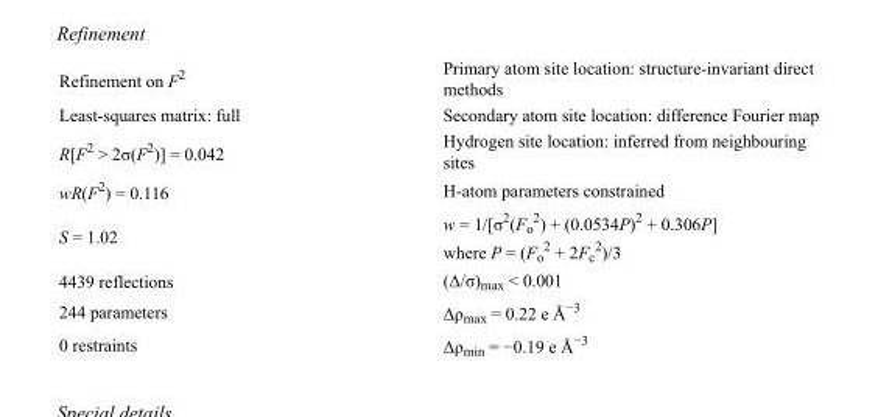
<table><tbody><tr><td>Refinement on F<sup>2</sup></td><td>Primary atom site location: structure-invariant direct methods</td></tr><tr><td>Least-squares matrix: full</td><td>Secondary atom site location: difference Fourier map</td></tr><tr><td>R[F<sup>2</sup> &gt; 2σ(F<sup>2</sup>)] = 0.042</td><td>Hydrogen site location: inferred from neighbouring sites</td></tr><tr><td>wR(F<sup>2</sup>) = 0.116</td><td>H-atom parameters constrained</td></tr><tr><td>S = 1.02</td><td>w = 1/[σ<sup>2</sup>(F<sub>o</sub> <sup>2</sup>) + (0.0534P)<sup>2</sup> + 0.306P] where P = (F<sub>o</sub> <sup>2</sup> + 2F<sub>c</sub> <sup>2</sup>)/3</td></tr><tr><td>4439 reflections</td><td>(Δ/σ)<sub>max</sub> &lt; 0.001</td></tr><tr><td>244 parameters</td><td>Δρ<sub>max</sub> = 0.22 e Å<sup>−3</sup></td></tr><tr><td>0 restraints</td><td>Δρ<sub>min</sub> = −0.19 e Å<sup>−3</sup></td></tr></tbody></table>